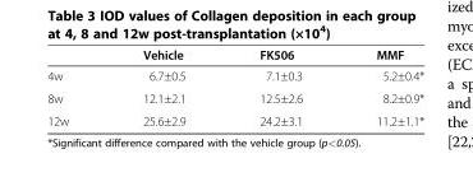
<table><thead><tr><td></td><td>Vehicle</td><td>FK506</td><td>MMF</td></tr></thead><tbody><tr><td>4w</td><td>6.7±0.5</td><td>7.1±0.3</td><td>5.2±0.4*</td></tr><tr><td>8w</td><td>12.1±2.1</td><td>12.5±2.6</td><td>8.2±0.9*</td></tr><tr><td>12w</td><td>25.6±2.9</td><td>24.2±3.1</td><td>11.2±1.1*</td></tr></tbody></table>